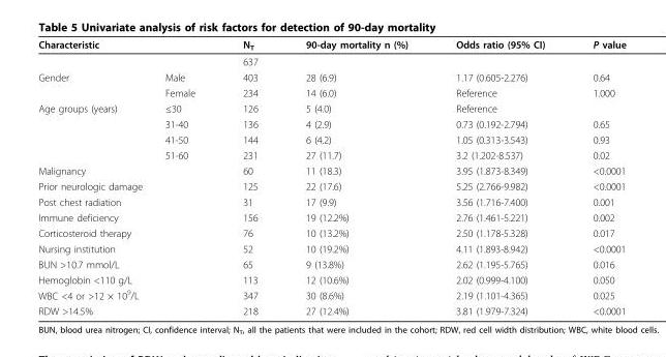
<table><thead><tr><td>Characteristic</td><td></td><td>N<sub>T</sub></td><td>90-day mortality n (%)</td><td>Odds ratio (95% CI)</td><td>P value</td></tr></thead><tbody><tr><td></td><td></td><td>637</td><td></td><td></td><td></td></tr><tr><td rowspan="2">Gender</td><td>Male</td><td>403</td><td>28 (6.9)</td><td>1.17 (0.605-2.276)</td><td>0.64</td></tr><tr><td>Female</td><td>234</td><td>14 (6.0)</td><td>Reference</td><td>1.000</td></tr><tr><td rowspan="4">Age groups (years)</td><td>≤30</td><td>126</td><td>5 (4.0)</td><td>Reference</td><td></td></tr><tr><td>31-40</td><td>136</td><td>4 (2.9)</td><td>0.73 (0.192-2.794)</td><td>0.65</td></tr><tr><td>41-50</td><td>144</td><td>6 (4.2)</td><td>1.05 (0.313-3.543)</td><td>0.93</td></tr><tr><td>51-60</td><td>231</td><td>27 (11.7)</td><td>3.2 (1.202-8.537)</td><td>0.02</td></tr><tr><td colspan="2">Malignancy</td><td>60</td><td>11 (18.3)</td><td>3.95 (1.873-8.349)</td><td>&lt;0.0001</td></tr><tr><td colspan="2">Prior neurologic damage</td><td>125</td><td>22 (17.6)</td><td>5.25 (2.766-9.982)</td><td>&lt;0.0001</td></tr><tr><td colspan="2">Post chest radiation</td><td>31</td><td>17 (9.9)</td><td>3.56 (1.716-7.400)</td><td>0.001</td></tr><tr><td colspan="2">Immune deficiency</td><td>156</td><td>19 (12.2%)</td><td>2.76 (1.461-5.221)</td><td>0.002</td></tr><tr><td colspan="2">Corticosteroid therapy</td><td>76</td><td>10 (13.2%)</td><td>2.50 (1.178-5.328)</td><td>0.017</td></tr><tr><td colspan="2">Nursing institution</td><td>52</td><td>10 (19.2%)</td><td>4.11 (1.893-8.942)</td><td>&lt;0.0001</td></tr><tr><td colspan="2">BUN &gt;10.7 mmol/L</td><td>65</td><td>9 (13.8%)</td><td>2.62 (1.195-5.765)</td><td>0.016</td></tr><tr><td colspan="2">Hemoglobin &lt;110 g/L</td><td>113</td><td>12 (10.6%)</td><td>2.02 (0.999-4.100)</td><td>0.050</td></tr><tr><td colspan="2">WBC &lt;4 or &gt;12 × 10<sup>9</sup>/L</td><td>347</td><td>30 (8.6%)</td><td>2.19 (1.101-4.365)</td><td>0.025</td></tr><tr><td colspan="2">RDW &gt;14.5%</td><td>218</td><td>27 (12.4%)</td><td>3.81 (1.979-7.324)</td><td>&lt;0.0001</td></tr></tbody></table>